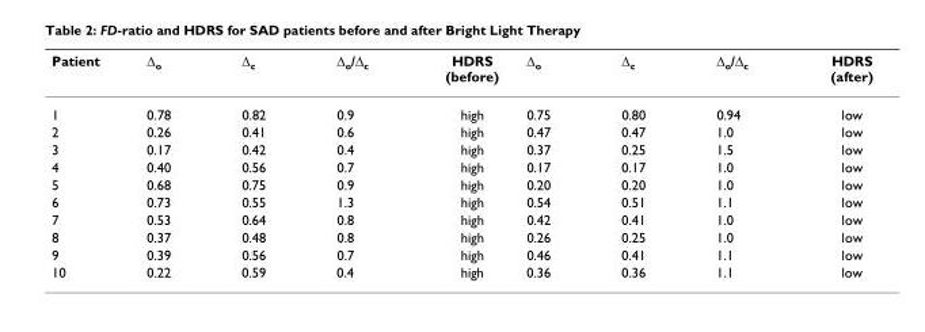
<table><thead><tr><td>Patient</td><td>Δ<sub>o</sub></td><td>Δ<sub>c</sub></td><td>Δ<sub>o</sub>/Δ<sub>c</sub></td><td>HDRS (before)</td><td>Δ<sub>o</sub></td><td>Δ<sub>c</sub></td><td>Δ<sub>o</sub>/Δ<sub>c</sub></td><td>HDRS (after)</td></tr></thead><tbody><tr><td>1</td><td>0.78</td><td>0.82</td><td>0.9</td><td>high</td><td>0.75</td><td>0.80</td><td>0.94</td><td>low</td></tr><tr><td>2</td><td>0.26</td><td>0.41</td><td>0.6</td><td>high</td><td>0.47</td><td>0.47</td><td>1.0</td><td>low</td></tr><tr><td>3</td><td>0.17</td><td>0.42</td><td>0.4</td><td>high</td><td>0.37</td><td>0.25</td><td>1.5</td><td>low</td></tr><tr><td>4</td><td>0.40</td><td>0.56</td><td>0.7</td><td>high</td><td>0.17</td><td>0.17</td><td>1.0</td><td>low</td></tr><tr><td>5</td><td>0.68</td><td>0.75</td><td>0.9</td><td>high</td><td>0.20</td><td>0.20</td><td>1.0</td><td>low</td></tr><tr><td>6</td><td>0.73</td><td>0.55</td><td>1.3</td><td>high</td><td>0.54</td><td>0.51</td><td>1.1</td><td>low</td></tr><tr><td>7</td><td>0.53</td><td>0.64</td><td>0.8</td><td>high</td><td>0.42</td><td>0.41</td><td>1.0</td><td>low</td></tr><tr><td>8</td><td>0.37</td><td>0.48</td><td>0.8</td><td>high</td><td>0.26</td><td>0.25</td><td>1.0</td><td>low</td></tr><tr><td>9</td><td>0.39</td><td>0.56</td><td>0.7</td><td>high</td><td>0.46</td><td>0.41</td><td>1.1</td><td>low</td></tr><tr><td>10</td><td>0.22</td><td>0.59</td><td>0.4</td><td>high</td><td>0.36</td><td>0.36</td><td>1.1</td><td>low</td></tr></tbody></table>